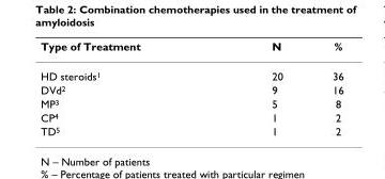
<table><thead><tr><td>Type of Treatment</td><td>N</td><td>%</td></tr></thead><tbody><tr><td>HD steroids<sup>1</sup></td><td>20</td><td>36</td></tr><tr><td>DVd<sup>2</sup></td><td>9</td><td>16</td></tr><tr><td>MP<sup>3</sup></td><td>5</td><td>8</td></tr><tr><td>CP<sup>4</sup></td><td>1</td><td>2</td></tr><tr><td>TD<sup>5</sup></td><td>1</td><td>2</td></tr></tbody></table>